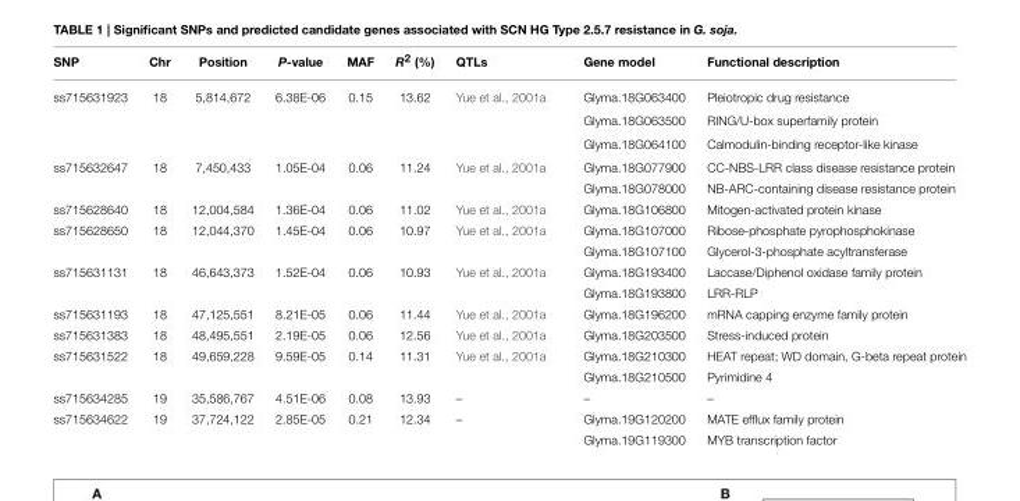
<table><thead><tr><td>SNP</td><td>Chr</td><td>Position</td><td>P-value</td><td>MAF</td><td>R<sup>2</sup> (%)</td><td>QTLs</td><td>Gene model</td><td>Functional description</td></tr></thead><tbody><tr><td rowspan="3">ss715631923</td><td>18</td><td>5,814,672</td><td>6.38E-06</td><td>0.15</td><td>13.62</td><td>Yue et al., 2001a</td><td>Glyma.18G063400</td><td>Pleiotropic drug resistance</td></tr><tr><td></td><td></td><td></td><td></td><td></td><td></td><td>Glyma.18G063500</td><td>RING/U-box superfamily protein</td></tr><tr><td></td><td></td><td></td><td></td><td></td><td></td><td>Glyma.18G064100</td><td>Calmodulin-binding receptor-like kinase</td></tr><tr><td rowspan="2">ss715632647</td><td>18</td><td>7,450,433</td><td>1.05E-04</td><td>0.06</td><td>11.24</td><td>Yue et al., 2001a</td><td>Glyma.18G077900</td><td>CC-NBS-LRR class disease resistance protein</td></tr><tr><td></td><td></td><td></td><td></td><td></td><td></td><td>Glyma.18G078000</td><td>NB-ARC-containing disease resistance protein</td></tr><tr><td>ss715628640</td><td>18</td><td>12,004,584</td><td>1.36E-04</td><td>0.06</td><td>11.02</td><td>Yue et al., 2001a</td><td>Glyma.18G106800</td><td>Mitogen-activated protein kinase</td></tr><tr><td rowspan="2">ss715628650</td><td>18</td><td>12,044,370</td><td>1.45E-04</td><td>0.06</td><td>10.97</td><td>Yue et al., 2001a</td><td>Glyma.18G107000</td><td>Ribose-phosphate pyrophosphokinase</td></tr><tr><td></td><td></td><td></td><td></td><td></td><td></td><td>Glyma.18G107100</td><td>Glycerol-3-phosphate acyltransferase</td></tr><tr><td rowspan="2">ss715631131</td><td>18</td><td>46,643,373</td><td>1.52E-04</td><td>0.06</td><td>10.93</td><td>Yue et al., 2001a</td><td>Glyma.18G193400</td><td>Laccase/Diphenol oxidase family protein</td></tr><tr><td></td><td></td><td></td><td></td><td></td><td></td><td>Glyma.18G193800</td><td>LRR-RLP</td></tr><tr><td>ss715631193</td><td>18</td><td>47,125,551</td><td>8.21E-05</td><td>0.06</td><td>11.44</td><td>Yue et al., 2001a</td><td>Glyma.18G196200</td><td>mRNA capping enzyme family protein</td></tr><tr><td>ss715631383</td><td>18</td><td>48,495,551</td><td>2.19E-05</td><td>0.06</td><td>12.56</td><td>Yue et al., 2001a</td><td>Glyma.18G203500</td><td>Stress-induced protein</td></tr><tr><td rowspan="2">ss715631522</td><td>18</td><td>49,659,228</td><td>9.59E-05</td><td>0.14</td><td>11.31</td><td>Yue et al., 2001a</td><td>Glyma.18G210300</td><td>HEAT repeat; WD domain, G-beta repeat protein</td></tr><tr><td></td><td></td><td></td><td></td><td></td><td></td><td>Glyma.18G210500</td><td>Pyrimidine 4</td></tr><tr><td>ss715634285</td><td>19</td><td>35,586,767</td><td>4.51E-06</td><td>0.08</td><td>13.93</td><td>–</td><td>–</td><td>–</td></tr><tr><td rowspan="2">ss715634622</td><td>19</td><td>37,724,122</td><td>2.85E-05</td><td>0.21</td><td>12.34</td><td>–</td><td>Glyma.19G120200</td><td>MATE efflux family protein</td></tr><tr><td></td><td></td><td></td><td></td><td></td><td></td><td>Glyma.19G119300</td><td>MYB transcription factor</td></tr></tbody></table>